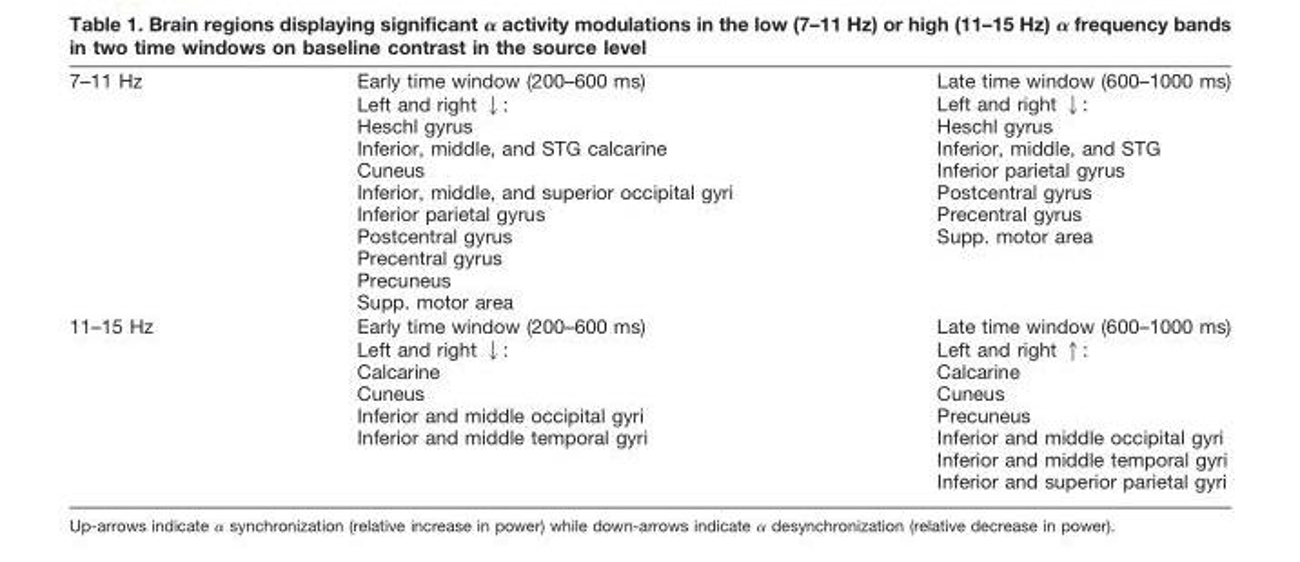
<table><thead><tr><td>7–11 Hz</td><td>Early time window (200–600 ms)</td><td>Late time window (600–1000 ms)</td></tr></thead><tbody><tr><td></td><td>Left and right ↓: Heschl gyrus Inferior, middle, and STG calcarine Cuneus Inferior, middle, and superior occipital gyri Inferior parietal gyrus Postcentral gyrus Precentral gyrus Precuneus Supp. motor area</td><td>Left and right ↓: Heschl gyrus Inferior, middle, and STG Inferior parietal gyrus Postcentral gyrus Precentral gyrus Supp. motor area</td></tr><tr><td rowspan="2">11–15 Hz</td><td>Early time window (200–600 ms)</td><td>Late time window (600–1000 ms)</td></tr><tr><td>Left and right ↓: Calcarine Cuneus Inferior and middle occipital gyri Inferior and middle temporal gyri</td><td>Left and right ↑: Calcarine Cuneus Precuneus Inferior and middle occipital gyri Inferior and middle temporal gyri Inferior and superior parietal gyri</td></tr></tbody></table>